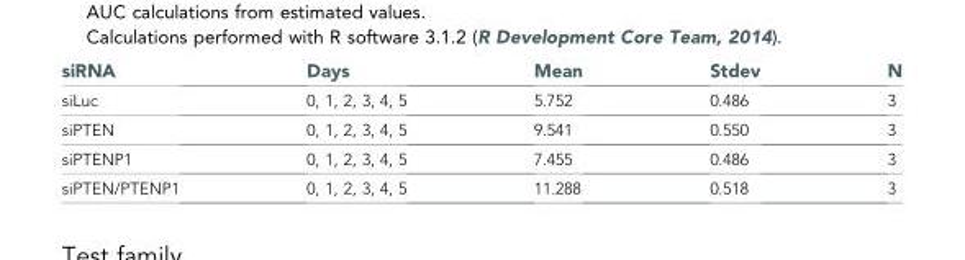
<table><thead><tr><td>siRNA</td><td>Days</td><td>Mean</td><td>Stdev</td><td>N</td></tr></thead><tbody><tr><td>siLuc</td><td>0, 1, 2, 3, 4, 5</td><td>5.752</td><td>0.486</td><td>3</td></tr><tr><td>siPTEN</td><td>0, 1, 2, 3, 4, 5</td><td>9.541</td><td>0.550</td><td>3</td></tr><tr><td>siPTENP1</td><td>0, 1, 2, 3, 4, 5</td><td>7.455</td><td>0.486</td><td>3</td></tr><tr><td>siPTEN/PTENP1</td><td>0, 1, 2, 3, 4, 5</td><td>11.288</td><td>0.518</td><td>3</td></tr></tbody></table>